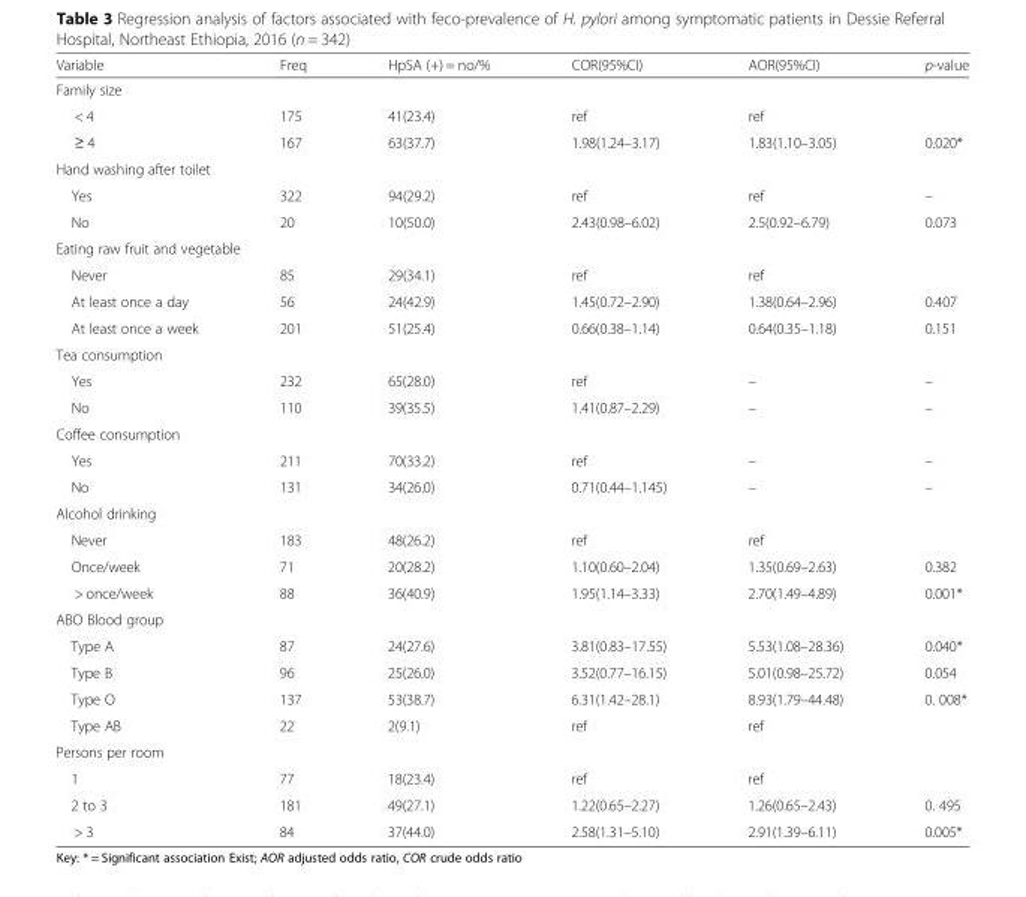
<table><thead><tr><td>Variable</td><td>Freq</td><td>HpSA (+) = no/%</td><td>COR(95%CI)</td><td>AOR(95%CI)</td><td>p-value</td></tr></thead><tbody><tr><td colspan="6">Family size</td></tr><tr><td>&lt; 4</td><td>175</td><td>41(23.4)</td><td>ref</td><td>ref</td><td></td></tr><tr><td>≥ 4</td><td>167</td><td>63(37.7)</td><td>1.98(1.24–3.17)</td><td>1.83(1.10–3.05)</td><td>0.020*</td></tr><tr><td colspan="6">Hand washing after toilet</td></tr><tr><td>Yes</td><td>322</td><td>94(29.2)</td><td>ref</td><td>ref</td><td>–</td></tr><tr><td>No</td><td>20</td><td>10(50.0)</td><td>2.43(0.98–6.02)</td><td>2.5(0.92–6.79)</td><td>0.073</td></tr><tr><td colspan="6">Eating raw fruit and vegetable</td></tr><tr><td>Never</td><td>85</td><td>29(34.1)</td><td>ref</td><td>ref</td><td></td></tr><tr><td>At least once a day</td><td>56</td><td>24(42.9)</td><td>1.45(0.72–2.90)</td><td>1.38(0.64–2.96)</td><td>0.407</td></tr><tr><td>At least once a week</td><td>201</td><td>51(25.4)</td><td>0.66(0.38–1.14)</td><td>0.64(0.35–1.18)</td><td>0.151</td></tr><tr><td colspan="6">Tea consumption</td></tr><tr><td>Yes</td><td>232</td><td>65(28.0)</td><td>ref</td><td>–</td><td>–</td></tr><tr><td>No</td><td>110</td><td>39(35.5)</td><td>1.41(0.87–2.29)</td><td>–</td><td>–</td></tr><tr><td colspan="6">Coffee consumption</td></tr><tr><td>Yes</td><td>211</td><td>70(33.2)</td><td>ref</td><td>–</td><td>–</td></tr><tr><td>No</td><td>131</td><td>34(26.0)</td><td>0.71(0.44–1.145)</td><td>–</td><td>–</td></tr><tr><td colspan="6">Alcohol drinking</td></tr><tr><td>Never</td><td>183</td><td>48(26.2)</td><td>ref</td><td>ref</td><td></td></tr><tr><td>Once/week</td><td>71</td><td>20(28.2)</td><td>1.10(0.60–2.04)</td><td>1.35(0.69–2.63)</td><td>0.382</td></tr><tr><td>&gt; once/week</td><td>88</td><td>36(40.9)</td><td>1.95(1.14–3.33)</td><td>2.70(1.49–4.89)</td><td>0.001*</td></tr><tr><td colspan="6">ABO Blood group</td></tr><tr><td>Type A</td><td>87</td><td>24(27.6)</td><td>3.81(0.83–17.55)</td><td>5.53(1.08–28.36)</td><td>0.040*</td></tr><tr><td>Type B</td><td>96</td><td>25(26.0)</td><td>3.52(0.77–16.15)</td><td>5.01(0.98–25.72)</td><td>0.054</td></tr><tr><td>Type O</td><td>137</td><td>53(38.7)</td><td>6.31(1.42–28.1)</td><td>8.93(1.79–44.48)</td><td>0. 008*</td></tr><tr><td>Type AB</td><td>22</td><td>2(9.1)</td><td>ref</td><td>ref</td><td></td></tr><tr><td colspan="6">Persons per room</td></tr><tr><td>1</td><td>77</td><td>18(23.4)</td><td>ref</td><td>ref</td><td></td></tr><tr><td>2 to 3</td><td>181</td><td>49(27.1)</td><td>1.22(0.65–2.27)</td><td>1.26(0.65–2.43)</td><td>0. 495</td></tr><tr><td>&gt; 3</td><td>84</td><td>37(44.0)</td><td>2.58(1.31–5.10)</td><td>2.91(1.39–6.11)</td><td>0.005*</td></tr></tbody></table>